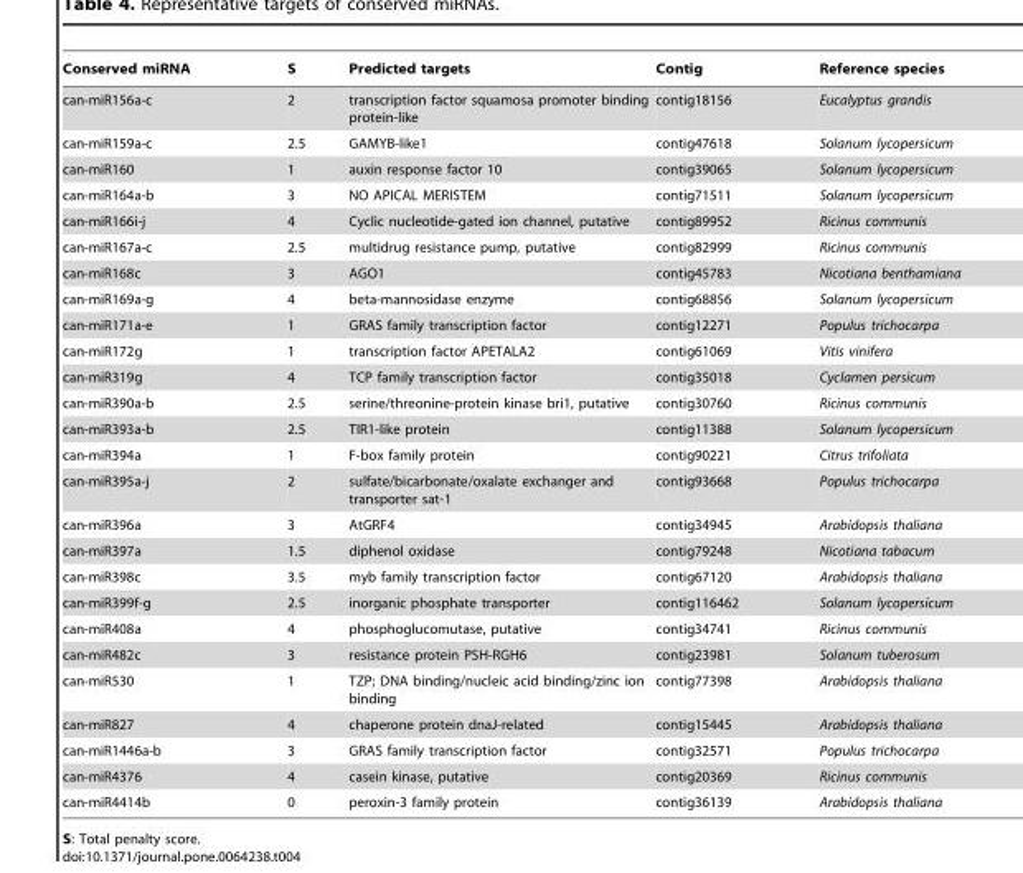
<table><thead><tr><td>Conserved miRNA</td><td>S</td><td>Predicted targets</td><td>Contig</td><td>Reference species</td></tr></thead><tbody><tr><td>can-miR156a-c</td><td>2</td><td>transcription factor squamosa promoter binding protein-like</td><td>contig18156</td><td>Eucalyptus grandis</td></tr><tr><td>can-miR159a-c</td><td>2.5</td><td>GAMYB-like1</td><td>contig47618</td><td>Solanum lycopersicum</td></tr><tr><td>can-miR160</td><td>1</td><td>auxin response factor 10</td><td>contig39065</td><td>Solanum lycopersicum</td></tr><tr><td>can-miR164a-b</td><td>3</td><td>NO APICAL MERISTEM</td><td>contig71511</td><td>Solanum lycopersicum</td></tr><tr><td>can-miR166i-j</td><td>4</td><td>Cyclic nucleotide-gated ion channel, putative</td><td>contig89952</td><td>Ricinus communis</td></tr><tr><td>can-miR167a-c</td><td>2.5</td><td>multidrug resistance pump, putative</td><td>contig82999</td><td>Ricinus communis</td></tr><tr><td>can-miR168c</td><td>3</td><td>AGO1</td><td>contig45783</td><td>Nicotiana benthamiana</td></tr><tr><td>can-miR169a-g</td><td>4</td><td>beta-mannosidase enzyme</td><td>contig68856</td><td>Solanum lycopersicum</td></tr><tr><td>can-miR171a-e</td><td>1</td><td>GRAS family transcription factor</td><td>contig12271</td><td>Populus trichocarpa</td></tr><tr><td>can-miR172g</td><td>1</td><td>transcription factor APETALA2</td><td>contig61069</td><td>Vitis vinifera</td></tr><tr><td>can-miR319g</td><td>4</td><td>TCP family transcription factor</td><td>contig35018</td><td>Cyclamen persicum</td></tr><tr><td>can-miR390a-b</td><td>2.5</td><td>serine/threonine-protein kinase bri1, putative</td><td>contig30760</td><td>Ricinus communis</td></tr><tr><td>can-miR393a-b</td><td>2.5</td><td>TIR1-like protein</td><td>contig11388</td><td>Solanum lycopersicum</td></tr><tr><td>can-miR394a</td><td>1</td><td>F-box family protein</td><td>contig90221</td><td>Citrus trifoliata</td></tr><tr><td>can-miR395a-j</td><td>2</td><td>sulfate/bicarbonate/oxalate exchanger and transporter sat-1</td><td>contig93668</td><td>Populus trichocarpa</td></tr><tr><td>can-miR396a</td><td>3</td><td>AtGRF4</td><td>contig34945</td><td>Arabidopsis thaliana</td></tr><tr><td>can-miR397a</td><td>1.5</td><td>diphenol oxidase</td><td>contig79248</td><td>Nicotiana tabacum</td></tr><tr><td>can-miR398c</td><td>3.5</td><td>myb family transcription factor</td><td>contig67120</td><td>Arabidopsis thaliana</td></tr><tr><td>can-miR399f-g</td><td>2.5</td><td>inorganic phosphate transporter</td><td>contig116462</td><td>Solanum lycopersicum</td></tr><tr><td>can-miR408a</td><td>4</td><td>phosphoglucomutase, putative</td><td>contig34741</td><td>Ricinus communis</td></tr><tr><td>can-miR482c</td><td>3</td><td>resistance protein PSH-RGH6</td><td>contig23981</td><td>Solanum tuberosum</td></tr><tr><td>can-miR530</td><td>1</td><td>TZP; DNA binding/nucleic acid binding/zinc ion binding</td><td>contig77398</td><td>Arabidopsis thaliana</td></tr><tr><td>can-miR827</td><td>4</td><td>chaperone protein dnaJ-related</td><td>contig15445</td><td>Arabidopsis thaliana</td></tr><tr><td>can-miR1446a-b</td><td>3</td><td>GRAS family transcription factor</td><td>contig32571</td><td>Populus trichocarpa</td></tr><tr><td>can-miR4376</td><td>4</td><td>casein kinase, putative</td><td>contig20369</td><td>Ricinus communis</td></tr><tr><td>can-miR4414b</td><td>0</td><td>peroxin-3 family protein</td><td>contig36139</td><td>Arabidopsis thaliana</td></tr></tbody></table>